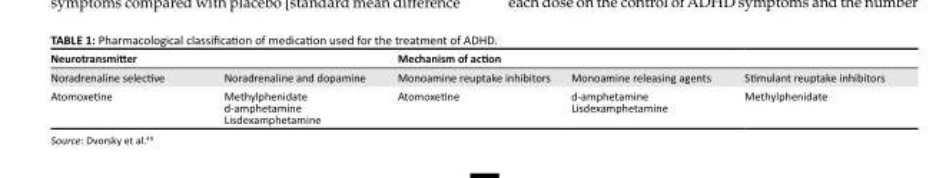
<table><thead><tr><td colspan="2">Neurotransmitter</td><td colspan="3">Mechanism of action</td></tr><tr><td>Noradrenaline selective</td><td>Noradrenaline and dopamine</td><td>Monoamine reuptake inhibitors</td><td>Monoamine releasing agents</td><td>Stimulant reuptake inhibitors</td></tr></thead><tbody><tr><td>Atomoxetine</td><td>Methylphenidate d-amphetamine Lisdexamphetamine</td><td>Atomoxetine</td><td>d-amphetamine Lisdexamphetamine</td><td>Methylphenidate</td></tr></tbody></table>